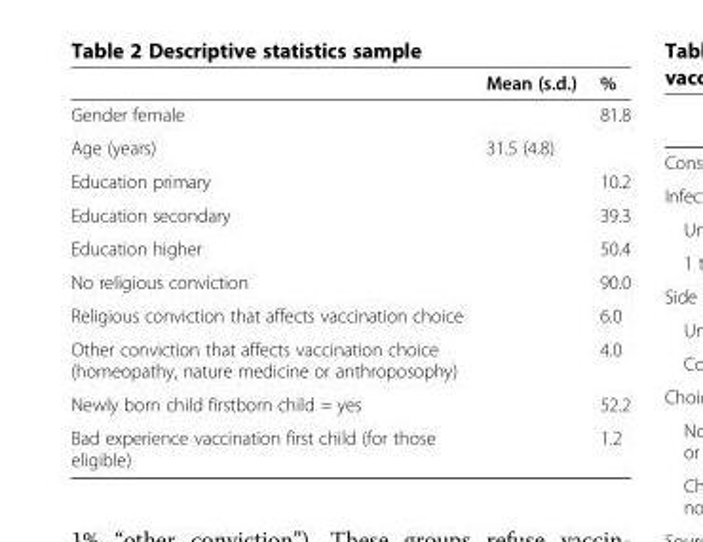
<table><thead><tr><td></td><td>Mean (s.d.)</td><td>%</td></tr></thead><tbody><tr><td>Gender female</td><td></td><td>81.8</td></tr><tr><td>Age (years)</td><td>31.5 (4.8)</td><td></td></tr><tr><td>Education primary</td><td></td><td>10.2</td></tr><tr><td>Education secondary</td><td></td><td>39.3</td></tr><tr><td>Education higher</td><td></td><td>50.4</td></tr><tr><td>No religious conviction</td><td></td><td>90.0</td></tr><tr><td>Religious conviction that affects vaccination choice</td><td></td><td>6.0</td></tr><tr><td>Other conviction that affects vaccination choice (homeopathy, nature medicine or anthroposophy)</td><td></td><td>4.0</td></tr><tr><td>Newly born child firstborn child = yes</td><td></td><td>52.2</td></tr><tr><td>Bad experience vaccination first child (for those eligible)</td><td></td><td>1.2</td></tr></tbody></table>